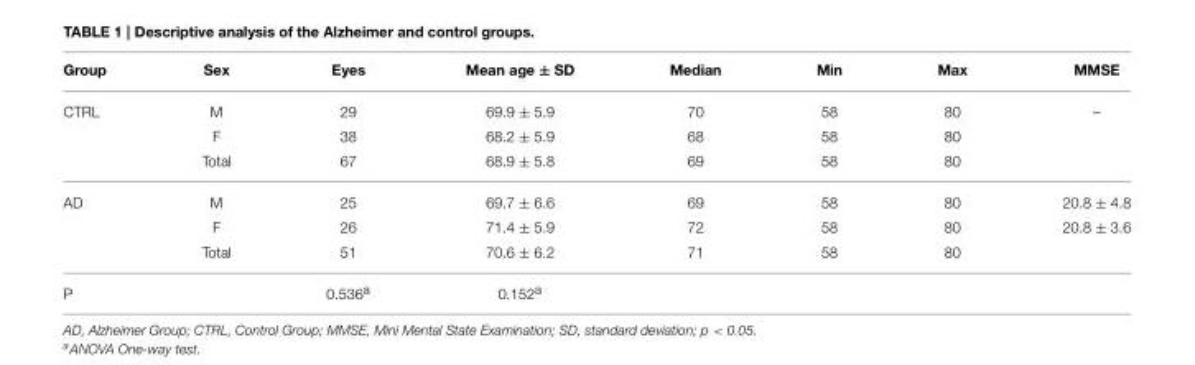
<table><thead><tr><td>Group</td><td>Sex</td><td>Eyes</td><td>Mean age ± SD</td><td>Median</td><td>Min</td><td>Max</td><td>MMSE</td></tr></thead><tbody><tr><td rowspan="3">CTRL</td><td>M</td><td>29</td><td>69.9 ± 5.9</td><td>70</td><td>58</td><td>80</td><td>–</td></tr><tr><td>F</td><td>38</td><td>68.2 ± 5.9</td><td>68</td><td>58</td><td>80</td><td></td></tr><tr><td>Total</td><td>67</td><td>68.9 ± 5.8</td><td>69</td><td>58</td><td>80</td><td></td></tr><tr><td rowspan="3">AD</td><td>M</td><td>25</td><td>69.7 ± 6.6</td><td>69</td><td>58</td><td>80</td><td>20.8 ± 4.8</td></tr><tr><td>F</td><td>26</td><td>71.4 ± 5.9</td><td>72</td><td>58</td><td>80</td><td>20.8 ± 3.6</td></tr><tr><td>Total</td><td>51</td><td>70.6 ± 6.2</td><td>71</td><td>58</td><td>80</td><td></td></tr><tr><td>P</td><td></td><td>0.536<sup>a</sup></td><td>0.152<sup>a</sup></td><td></td><td></td><td></td><td></td></tr></tbody></table>